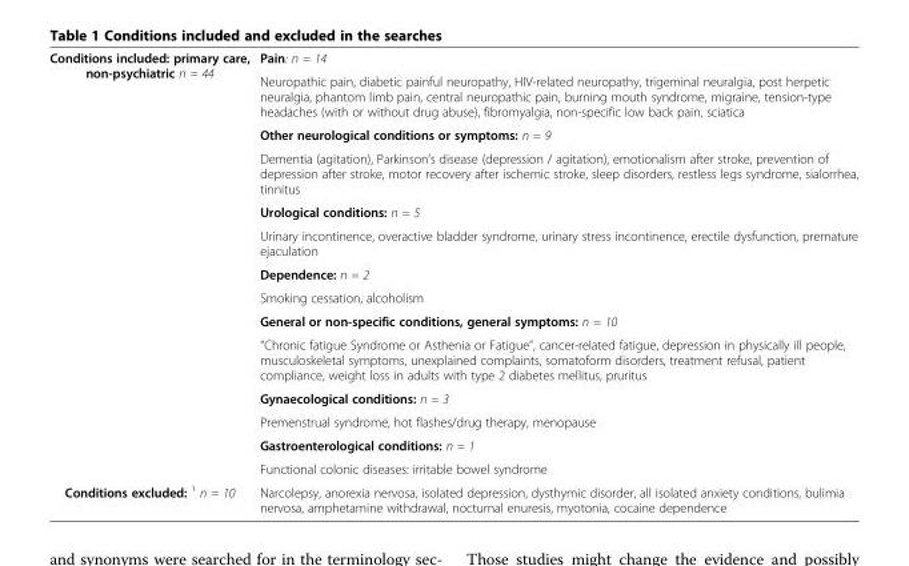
<table><tbody><tr><td rowspan="14">Conditions included: primary care, non-psychiatric n = 44</td><td>Pain: n = 14</td></tr><tr><td>Neuropathic pain, diabetic painful neuropathy, HIV-related neuropathy, trigeminal neuralgia, post herpetic neuralgia, phantom limb pain, central neuropathic pain, burning mouth syndrome, migraine, tension-type headaches (with or without drug abuse), fibromyalgia, non-specific low back pain, sciatica</td></tr><tr><td>Other neurological conditions or symptoms: n = 9</td></tr><tr><td>Dementia (agitation), Parkinson’s disease (depression / agitation), emotionalism after stroke, prevention of depression after stroke, motor recovery after ischemic stroke, sleep disorders, restless legs syndrome, sialorrhea, tinnitus</td></tr><tr><td>Urological conditions: n = 5</td></tr><tr><td>Urinary incontinence, overactive bladder syndrome, urinary stress incontinence, erectile dysfunction, premature ejaculation</td></tr><tr><td>Dependence: n = 2</td></tr><tr><td>Smoking cessation, alcoholism</td></tr><tr><td>General or non-specific conditions, general symptoms: n = 10</td></tr><tr><td>“Chronic fatigue Syndrome or Asthenia or Fatigue”, cancer-related fatigue, depression in physically ill people, musculoskeletal symptoms, unexplained complaints, somatoform disorders, treatment refusal, patient compliance, weight loss in adults with type 2 diabetes mellitus, pruritus</td></tr><tr><td>Gynaecological conditions: n = 3</td></tr><tr><td>Premenstrual syndrome, hot flashes/drug therapy, menopause</td></tr><tr><td>Gastroenterological conditions: n = 1</td></tr><tr><td>Functional colonic diseases: irritable bowel syndrome</td></tr><tr><td>Conditions excluded: <sup>1</sup> n = 10</td><td>Narcolepsy, anorexia nervosa, isolated depression, dysthymic disorder, all isolated anxiety conditions, bulimia nervosa, amphetamine withdrawal, nocturnal enuresis, myotonia, cocaine dependence</td></tr></tbody></table>